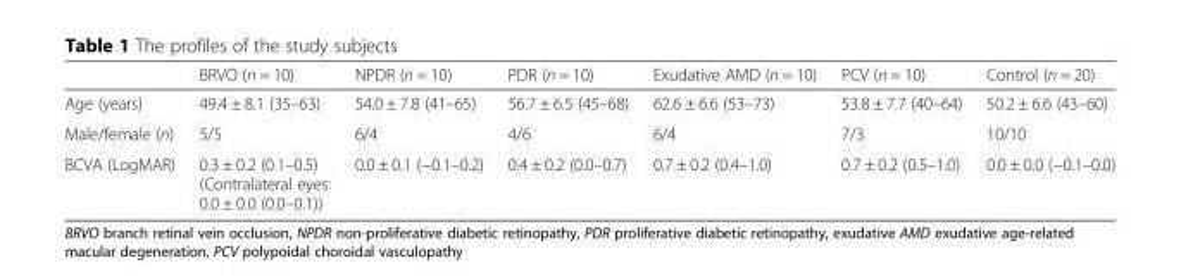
<table><thead><tr><td></td><td>BRVO (n = 10)</td><td>NPDR (n = 10)</td><td>PDR (n = 10)</td><td>Exudative AMD (n = 10)</td><td>PCV (n = 10)</td><td>Control (n = 20)</td></tr></thead><tbody><tr><td>Age (years)</td><td>49.4 ± 8.1 (35–63)</td><td>54.0 ± 7.8 (41–65)</td><td>56.7 ± 6.5 (45–68)</td><td>62.6 ± 6.6 (53–73)</td><td>53.8 ± 7.7 (40–64)</td><td>50.2 ± 6.6 (43–60)</td></tr><tr><td>Male/female (n)</td><td>5/5</td><td>6/4</td><td>4/6</td><td>6/4</td><td>7/3</td><td>10/10</td></tr><tr><td>BCVA (LogMAR)</td><td>0.3 ± 0.2 (0.1–0.5) (Contralateral eyes: 0.0 ± 0.0 (0.0–0.1))</td><td>0.0 ± 0.1 (−0.1–0.2)</td><td>0.4 ± 0.2 (0.0–0.7)</td><td>0.7 ± 0.2 (0.4–1.0)</td><td>0.7 ± 0.2 (0.5–1.0)</td><td>0.0 ± 0.0 (−0.1–0.0)</td></tr></tbody></table>